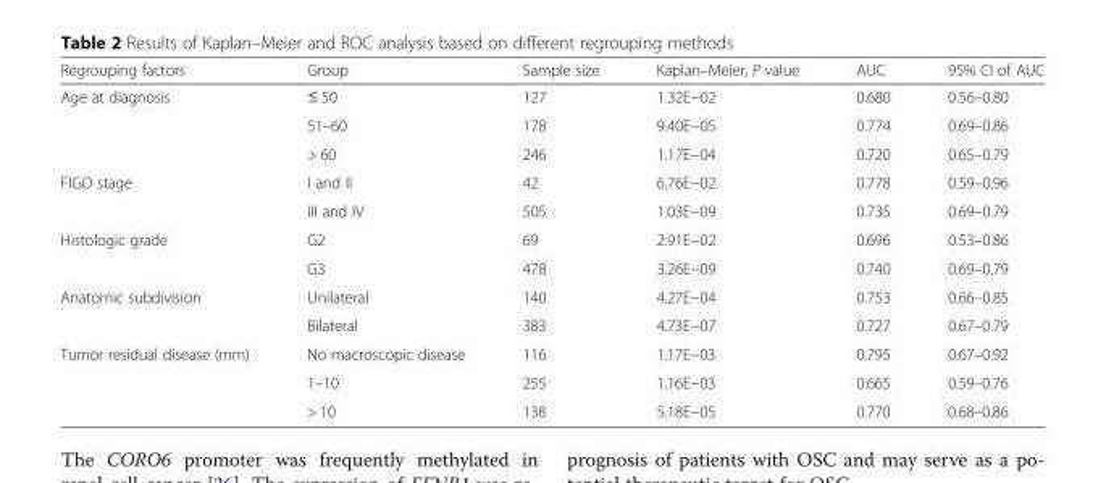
<table><thead><tr><td>Regrouping factors</td><td>Group</td><td>Sample size</td><td>Kaplan–Meier, P value</td><td>AUC</td><td>95% CI of AUC</td></tr></thead><tbody><tr><td rowspan="3">Age at diagnosis</td><td>≤ 50</td><td>127</td><td>1.32E−02</td><td>0.680</td><td>0.56–0.80</td></tr><tr><td>51–60</td><td>178</td><td>9.40E−05</td><td>0.774</td><td>0.69–0.86</td></tr><tr><td>&gt; 60</td><td>246</td><td>1.17E−04</td><td>0.720</td><td>0.65–0.79</td></tr><tr><td rowspan="2">FIGO stage</td><td>I and II</td><td>42</td><td>6.76E−02</td><td>0.778</td><td>0.59–0.96</td></tr><tr><td>III and IV</td><td>505</td><td>1.03E−09</td><td>0.735</td><td>0.69–0.79</td></tr><tr><td rowspan="2">Histologic grade</td><td>G2</td><td>69</td><td>2.91E−02</td><td>0.696</td><td>0.53–0.86</td></tr><tr><td>G3</td><td>478</td><td>3.26E−09</td><td>0.740</td><td>0.69–0.79</td></tr><tr><td rowspan="2">Anatomic subdivision</td><td>Unilateral</td><td>140</td><td>4.27E−04</td><td>0.753</td><td>0.66–0.85</td></tr><tr><td>Bilateral</td><td>383</td><td>4.73E−07</td><td>0.727</td><td>0.67–0.79</td></tr><tr><td rowspan="3">Tumor residual disease (mm)</td><td>No macroscopic disease</td><td>116</td><td>1.17E−03</td><td>0.795</td><td>0.67–0.92</td></tr><tr><td>1–10</td><td>255</td><td>1.16E−03</td><td>0.665</td><td>0.59–0.76</td></tr><tr><td>&gt; 10</td><td>138</td><td>5.18E−05</td><td>0.770</td><td>0.68–0.86</td></tr></tbody></table>